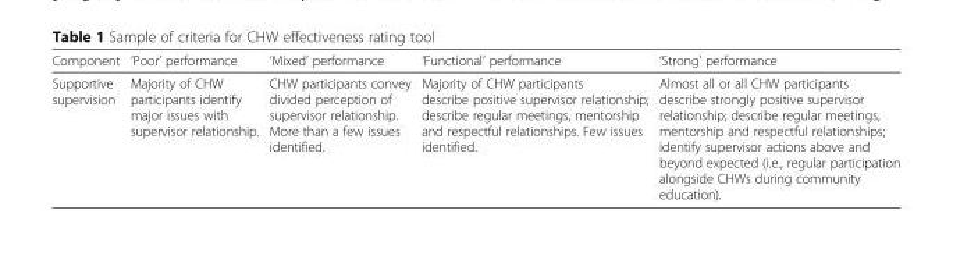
<table><thead><tr><td>Component</td><td>‘Poor’ performance</td><td>‘Mixed’ performance</td><td>‘Functional’ performance</td><td>‘Strong’ performance</td></tr></thead><tbody><tr><td>Supportive supervision</td><td>Majority of CHW participants identify major issues with supervisor relationship.</td><td>CHW participants convey divided perception of supervisor relationship. More than a few issues identified.</td><td>Majority of CHW participants describe positive supervisor relationship; describe regular meetings, mentorship and respectful relationships. Few issues identified.</td><td>Almost all or all CHW participants describe strongly positive supervisor relationship; describe regular meetings, mentorship and respectful relationships; identify supervisor actions above and beyond expected (i.e., regular participation alongside CHWs during community education).</td></tr></tbody></table>